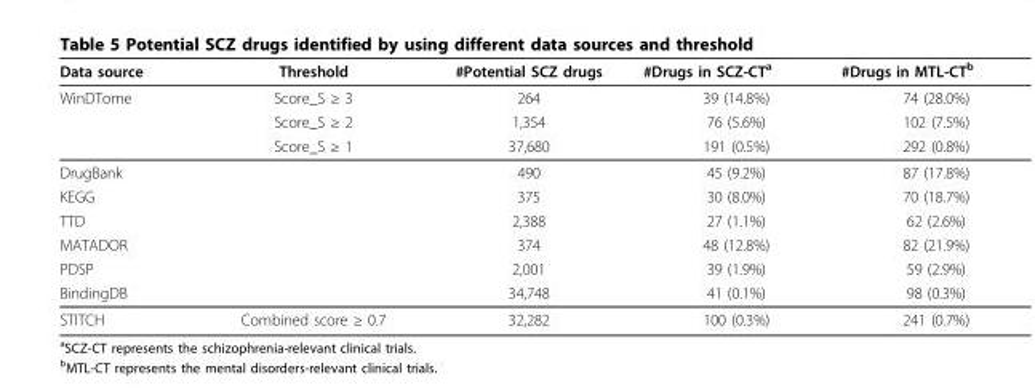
<table><thead><tr><td>Data source</td><td>Threshold</td><td>#Potential SCZ drugs</td><td>#Drugs in SCZ-CT<sup>a</sup></td><td>#Drugs in MTL-CT<sup>b</sup></td></tr></thead><tbody><tr><td rowspan="3">WinDTome</td><td>Score_S ≥ 3</td><td>264</td><td>39 (14.8%)</td><td>74 (28.0%)</td></tr><tr><td>Score_S ≥ 2</td><td>1,354</td><td>76 (5.6%)</td><td>102 (7.5%)</td></tr><tr><td>Score_S ≥ 1</td><td>37,680</td><td>191 (0.5%)</td><td>292 (0.8%)</td></tr><tr><td>DrugBank</td><td></td><td>490</td><td>45 (9.2%)</td><td>87 (17.8%)</td></tr><tr><td>KEGG</td><td></td><td>375</td><td>30 (8.0%)</td><td>70 (18.7%)</td></tr><tr><td>TTD</td><td></td><td>2,388</td><td>27 (1.1%)</td><td>62 (2.6%)</td></tr><tr><td>MATADOR</td><td></td><td>374</td><td>48 (12.8%)</td><td>82 (21.9%)</td></tr><tr><td>PDSP</td><td></td><td>2,001</td><td>39 (1.9%)</td><td>59 (2.9%)</td></tr><tr><td>BindingDB</td><td></td><td>34,748</td><td>41 (0.1%)</td><td>98 (0.3%)</td></tr><tr><td>STITCH</td><td>Combined score ≥ 0.7</td><td>32,282</td><td>100 (0.3%)</td><td>241 (0.7%)</td></tr></tbody></table>